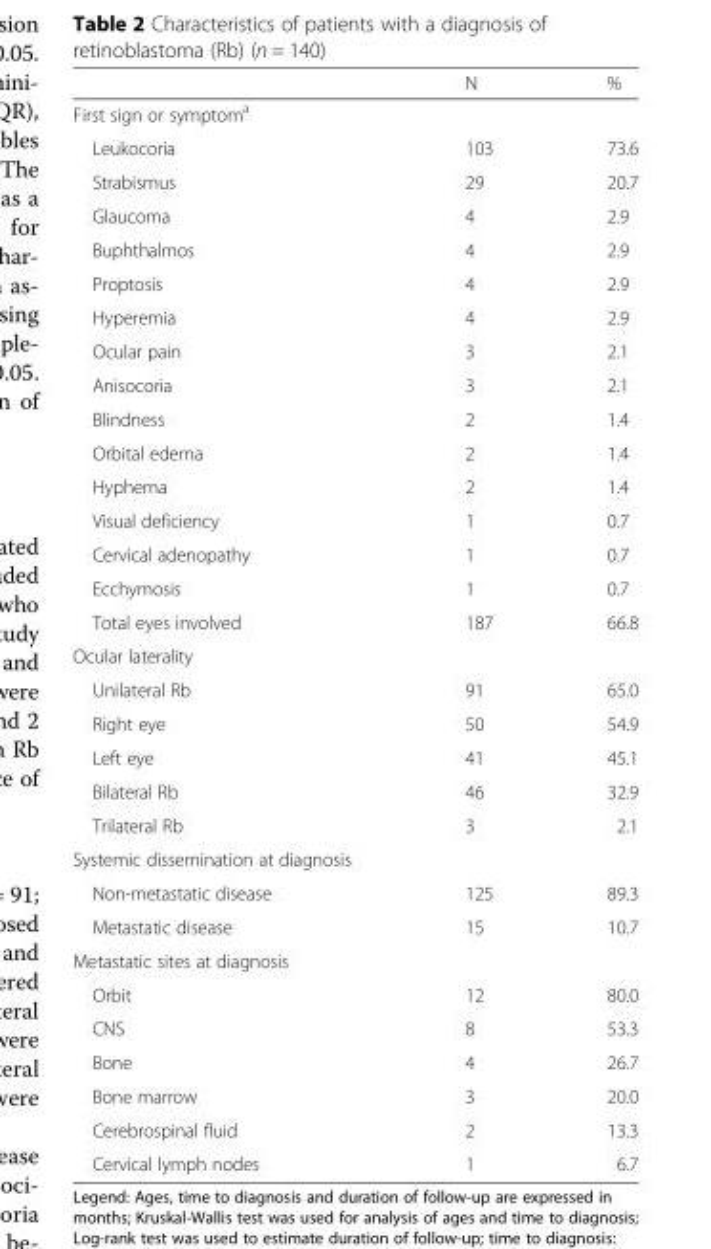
<table><thead><tr><td></td><td>N</td><td>%</td></tr></thead><tbody><tr><td colspan="3">First sign or symptom<sup>a</sup></td></tr><tr><td>Leukocoria</td><td>103</td><td>73.6</td></tr><tr><td>Strabismus</td><td>29</td><td>20.7</td></tr><tr><td>Glaucoma</td><td>4</td><td>2.9</td></tr><tr><td>Buphthalmos</td><td>4</td><td>2.9</td></tr><tr><td>Proptosis</td><td>4</td><td>2.9</td></tr><tr><td>Hyperemia</td><td>4</td><td>2.9</td></tr><tr><td>Ocular pain</td><td>3</td><td>2.1</td></tr><tr><td>Anisocoria</td><td>3</td><td>2.1</td></tr><tr><td>Blindness</td><td>2</td><td>1.4</td></tr><tr><td>Orbital edema</td><td>2</td><td>1.4</td></tr><tr><td>Hyphema</td><td>2</td><td>1.4</td></tr><tr><td>Visual deficiency</td><td>1</td><td>0.7</td></tr><tr><td>Cervical adenopathy</td><td>1</td><td>0.7</td></tr><tr><td>Ecchymosis</td><td>1</td><td>0.7</td></tr><tr><td>Total eyes involved</td><td>187</td><td>66.8</td></tr><tr><td colspan="3">Ocular laterality</td></tr><tr><td>Unilateral Rb</td><td>91</td><td>65.0</td></tr><tr><td>Right eye</td><td>50</td><td>54.9</td></tr><tr><td>Left eye</td><td>41</td><td>45.1</td></tr><tr><td>Bilateral Rb</td><td>46</td><td>32.9</td></tr><tr><td>Trilateral Rb</td><td>3</td><td>2.1</td></tr><tr><td colspan="3">Systemic dissemination at diagnosis</td></tr><tr><td>Non-metastatic disease</td><td>125</td><td>89.3</td></tr><tr><td>Metastatic disease</td><td>15</td><td>10.7</td></tr><tr><td colspan="3">Metastatic sites at diagnosis</td></tr><tr><td>Orbit</td><td>12</td><td>80.0</td></tr><tr><td>CNS</td><td>8</td><td>53.3</td></tr><tr><td>Bone</td><td>4</td><td>26.7</td></tr><tr><td>Bone marrow</td><td>3</td><td>20.0</td></tr><tr><td>Cerebrospinal fluid</td><td>2</td><td>13.3</td></tr><tr><td>Cervical lymph nodes</td><td>1</td><td>6.7</td></tr></tbody></table>